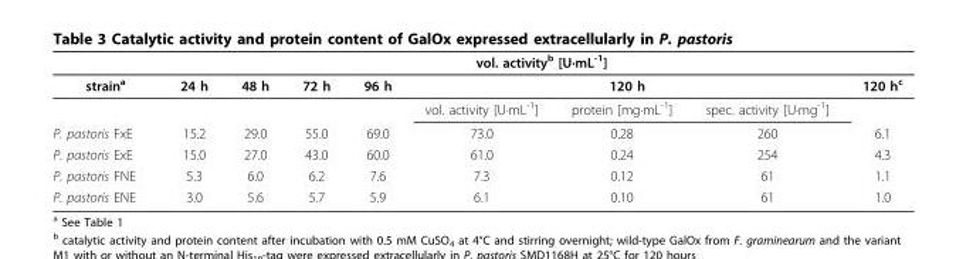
<table><thead><tr><td rowspan="3">strain<sup>a</sup></td><td colspan="8">vol. activity<sup>b</sup> [U·mL<sup>-1</sup>]</td></tr><tr><td rowspan="2">24 h</td><td rowspan="2">48 h</td><td rowspan="2">72 h</td><td rowspan="2">96 h</td><td colspan="3">120 h</td><td rowspan="2">120 h<sup>c</sup></td></tr><tr><td>vol. activity [U·mL<sup>-1</sup>]</td><td>protein [mg·mL<sup>-1</sup>]</td><td>spec. activity [U·mg<sup>-1</sup>]</td></tr></thead><tbody><tr><td>P. pastoris FxE</td><td>15.2</td><td>29.0</td><td>55.0</td><td>69.0</td><td>73.0</td><td>0.28</td><td>260</td><td>6.1</td></tr><tr><td>P. pastoris ExE</td><td>15.0</td><td>27.0</td><td>43.0</td><td>60.0</td><td>61.0</td><td>0.24</td><td>254</td><td>4.3</td></tr><tr><td>P. pastoris FNE</td><td>5.3</td><td>6.0</td><td>6.2</td><td>7.6</td><td>7.3</td><td>0.12</td><td>61</td><td>1.1</td></tr><tr><td>P. pastoris ENE</td><td>3.0</td><td>5.6</td><td>5.7</td><td>5.9</td><td>6.1</td><td>0.10</td><td>61</td><td>1.0</td></tr></tbody></table>